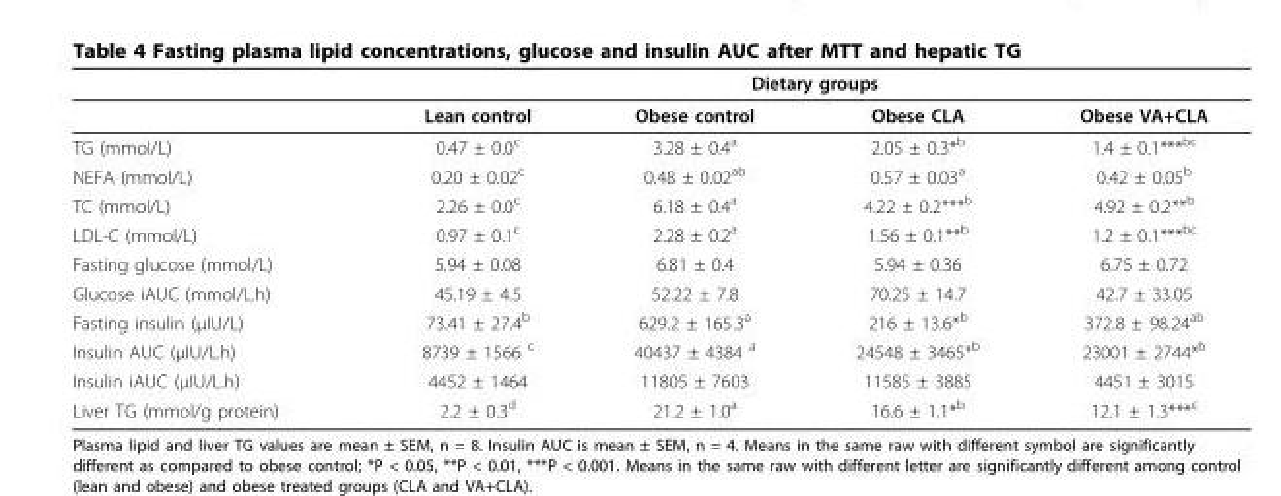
<table><thead><tr><td rowspan="2"></td><td colspan="4">Dietary groups</td></tr><tr><td>Lean control</td><td>Obese control</td><td>Obese CLA</td><td>Obese VA+CLA</td></tr></thead><tbody><tr><td>TG (mmol/L)</td><td>0.47 ± 0.0<sup>c</sup></td><td>3.28 ± 0.4<sup>a</sup></td><td>2.05 ± 0.3*<sup>b</sup></td><td>1.4 ± 0.1***<sup>bc</sup></td></tr><tr><td>NEFA (mmol/L)</td><td>0.20 ± 0.02<sup>c</sup></td><td>0.48 ± 0.02<sup>ab</sup></td><td>0.57 ± 0.03<sup>a</sup></td><td>0.42 ± 0.05<sup>b</sup></td></tr><tr><td>TC (mmol/L)</td><td>2.26 ± 0.0<sup>c</sup></td><td>6.18 ± 0.4<sup>a</sup></td><td>4.22 ± 0.2***<sup>b</sup></td><td>4.92 ± 0.2**<sup>b</sup></td></tr><tr><td>LDL-C (mmol/L)</td><td>0.97 ± 0.1<sup>c</sup></td><td>2.28 ± 0.2<sup>a</sup></td><td>1.56 ± 0.1**<sup>b</sup></td><td>1.2 ± 0.1***<sup>bc</sup></td></tr><tr><td>Fasting glucose (mmol/L)</td><td>5.94 ± 0.08</td><td>6.81 ± 0.4</td><td>5.94 ± 0.36</td><td>6.75 ± 0.72</td></tr><tr><td>Glucose iAUC (mmol/L.h)</td><td>45.19 ± 4.5</td><td>52.22 ± 7.8</td><td>70.25 ± 14.7</td><td>42.7 ± 33.05</td></tr><tr><td>Fasting insulin (μIU/L)</td><td>73.41 ± 27.4<sup>b</sup></td><td>629.2 ± 165.3<sup>a</sup></td><td>216 ± 13.6*<sup>b</sup></td><td>372.8 ± 98.24<sup>ab</sup></td></tr><tr><td>Insulin AUC (μIU/L.h)</td><td>8739 ± 1566 <sup>c</sup></td><td>40437 ± 4384 <sup>a</sup></td><td>24548 ± 3465*<sup>b</sup></td><td>23001 ± 2744*<sup>b</sup></td></tr><tr><td>Insulin iAUC (μIU/L.h)</td><td>4452 ± 1464</td><td>11805 ± 7603</td><td>11585 ± 3885</td><td>4451 ± 3015</td></tr><tr><td>Liver TG (mmol/g protein)</td><td>2.2 ± 0.3<sup>d</sup></td><td>21.2 ± 1.0<sup>a</sup></td><td>16.6 ± 1.1*<sup>b</sup></td><td>12.1 ± 1.3***<sup>c</sup></td></tr></tbody></table>